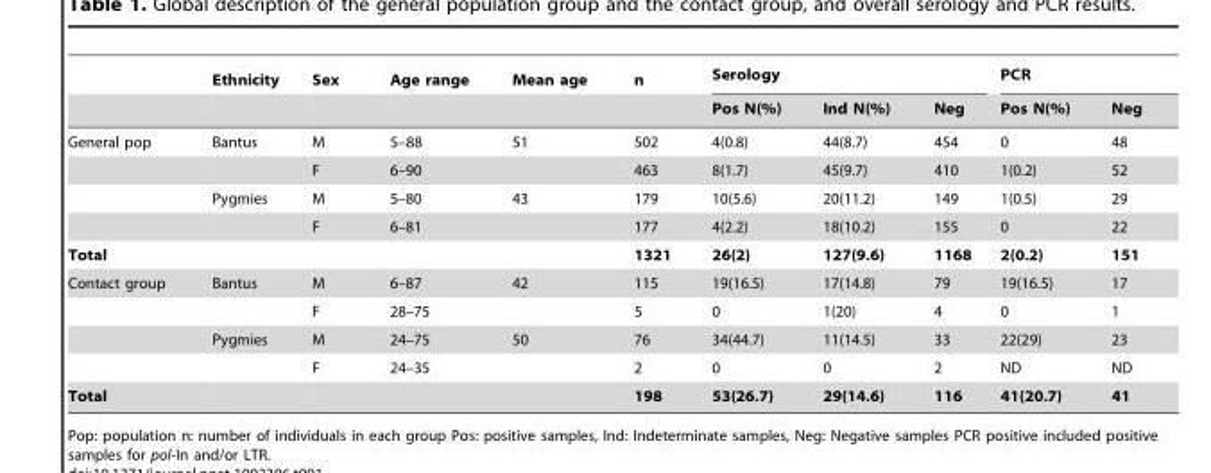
<table><thead><tr><td rowspan="2"></td><td rowspan="2">Ethnicity</td><td rowspan="2">Sex</td><td rowspan="2">Age range</td><td rowspan="2">Mean age</td><td rowspan="2">n</td><td colspan="3">Serology</td><td colspan="2">PCR</td></tr><tr><td>Pos N(%)</td><td>Ind N(%)</td><td>Neg</td><td>Pos N(%)</td><td>Neg</td></tr></thead><tbody><tr><td rowspan="4">General pop</td><td>Bantus</td><td>M</td><td>5–88</td><td>51</td><td>502</td><td>4(0.8)</td><td>44(8.7)</td><td>454</td><td>0</td><td>48</td></tr><tr><td></td><td>F</td><td>6–90</td><td></td><td>463</td><td>8(1.7)</td><td>45(9.7)</td><td>410</td><td>1(0.2)</td><td>52</td></tr><tr><td>Pygmies</td><td>M</td><td>5–80</td><td>43</td><td>179</td><td>10(5.6)</td><td>20(11.2)</td><td>149</td><td>1(0.5)</td><td>29</td></tr><tr><td></td><td>F</td><td>6–81</td><td></td><td>177</td><td>4(2.2)</td><td>18(10.2)</td><td>155</td><td>0</td><td>22</td></tr><tr><td>Total</td><td></td><td></td><td></td><td></td><td>1321</td><td>26(2)</td><td>127(9.6)</td><td>1168</td><td>2(0.2)</td><td>151</td></tr><tr><td rowspan="4">Contact group</td><td>Bantus</td><td>M</td><td>6–87</td><td>42</td><td>115</td><td>19(16.5)</td><td>17(14.8)</td><td>79</td><td>19(16.5)</td><td>17</td></tr><tr><td></td><td>F</td><td>28–75</td><td></td><td>5</td><td>0</td><td>1(20)</td><td>4</td><td>0</td><td>1</td></tr><tr><td>Pygmies</td><td>M</td><td>24–75</td><td>50</td><td>76</td><td>34(44.7)</td><td>11(14.5)</td><td>33</td><td>22(29)</td><td>23</td></tr><tr><td></td><td>F</td><td>24–35</td><td></td><td>2</td><td>0</td><td>0</td><td>2</td><td>ND</td><td>ND</td></tr><tr><td>Total</td><td></td><td></td><td></td><td></td><td>198</td><td>53(26.7)</td><td>29(14.6)</td><td>116</td><td>41(20.7)</td><td>41</td></tr></tbody></table>